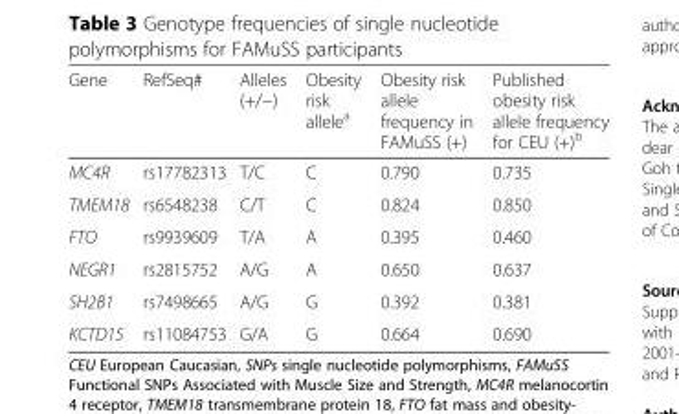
<table><thead><tr><td>Gene</td><td>RefSeq#</td><td>Alleles (+/−)</td><td>Obesity risk allele<sup>a</sup></td><td>Obesity risk allele frequency in FAMuSS (+)</td><td>Published obesity risk allele frequency for CEU (+)<sup>b</sup></td></tr></thead><tbody><tr><td>MC4R</td><td>rs17782313</td><td>T/C</td><td>C</td><td>0.790</td><td>0.735</td></tr><tr><td>TMEM18</td><td>rs6548238</td><td>C/T</td><td>C</td><td>0.824</td><td>0.850</td></tr><tr><td>FTO</td><td>rs9939609</td><td>T/A</td><td>A</td><td>0.395</td><td>0.460</td></tr><tr><td>NEGR1</td><td>rs2815752</td><td>A/G</td><td>A</td><td>0.650</td><td>0.637</td></tr><tr><td>SH2B1</td><td>rs7498665</td><td>A/G</td><td>G</td><td>0.392</td><td>0.381</td></tr><tr><td>KCTD15</td><td>rs11084753</td><td>G/A</td><td>G</td><td>0.664</td><td>0.690</td></tr></tbody></table>